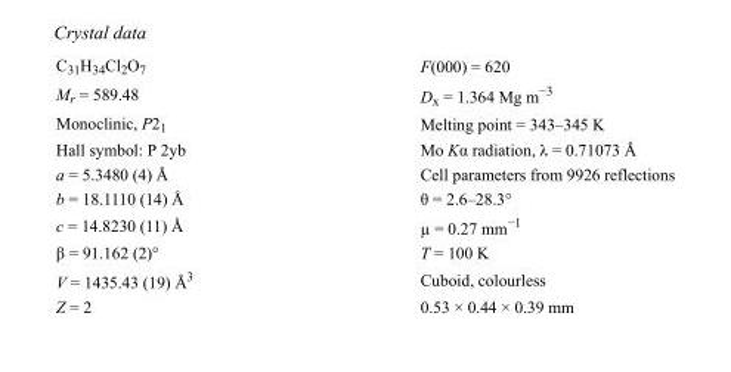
<table><tbody><tr><td>C<sub>31</sub>H<sub>34</sub>Cl<sub>2</sub>O<sub>7</sub></td><td>F(000) = 620</td></tr><tr><td>M<sub>r</sub> = 589.48</td><td>D<sub>x</sub> = 1.364 Mg m<sup>−3</sup></td></tr><tr><td>Monoclinic, P2<sub>1</sub></td><td>Melting point = 343–345 K</td></tr><tr><td>Hall symbol: P 2yb</td><td>Mo Kα radiation, λ = 0.71073 Å</td></tr><tr><td>a = 5.3480 (4) Å</td><td>Cell parameters from 9926 reflections</td></tr><tr><td>b = 18.1110 (14) Å</td><td>θ = 2.6–28.3°</td></tr><tr><td>c = 14.8230 (11) Å</td><td>µ = 0.27 mm<sup>−1</sup></td></tr><tr><td>β = 91.162 (2)°</td><td>T = 100 K</td></tr><tr><td>V = 1435.43 (19) Å<sup>3</sup></td><td>Cuboid, colourless</td></tr><tr><td>Z = 2</td><td>0.53 × 0.44 × 0.39 mm</td></tr></tbody></table>